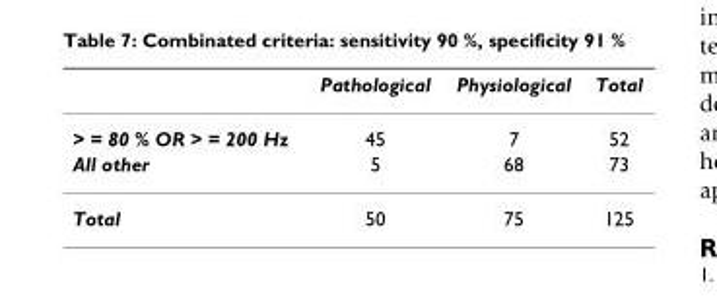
<table><thead><tr><td></td><td>Pathological</td><td>Physiological</td><td>Total</td></tr></thead><tbody><tr><td>&gt; = 80 % OR &gt; = 200 Hz</td><td>45</td><td>7</td><td>52</td></tr><tr><td>All other</td><td>5</td><td>68</td><td>73</td></tr><tr><td>Total</td><td>50</td><td>75</td><td>125</td></tr></tbody></table>